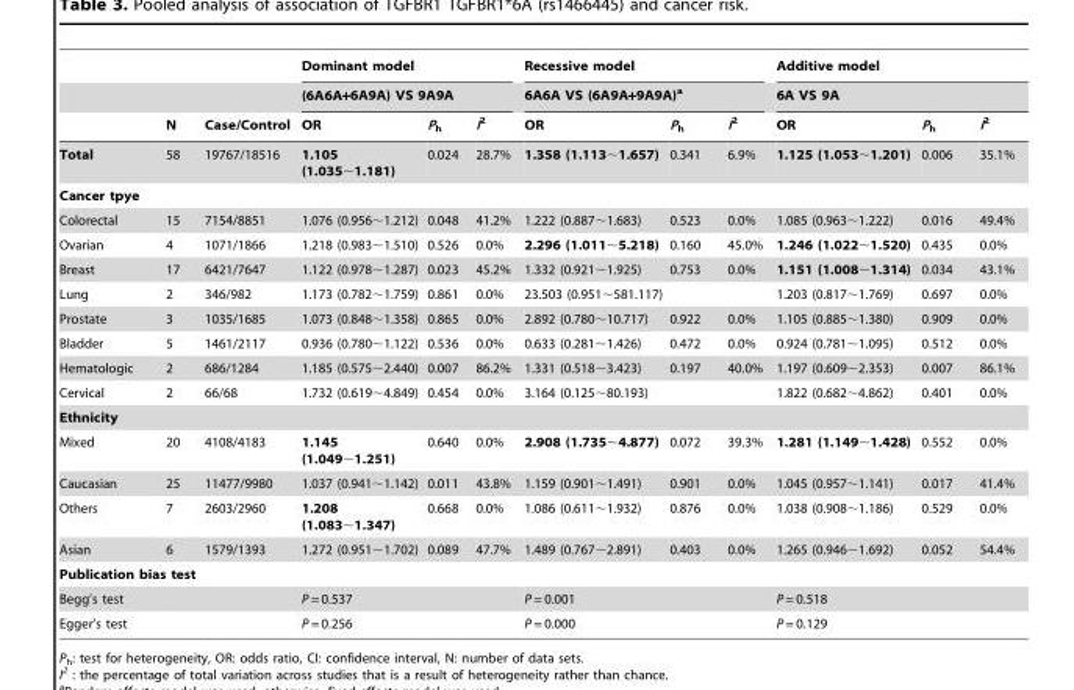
<table><thead><tr><td rowspan="3"></td><td rowspan="3">N</td><td rowspan="3">Case/Control</td><td rowspan="2" colspan="3">Dominant model (6A6A+6A9A) VS 9A9A</td><td rowspan="2" colspan="3">Recessive model 6A6A VS (6A9A+9A9A)<sup>a</sup></td><td rowspan="2" colspan="3">Additive model 6A VS 9A</td></tr><tr></tr><tr><td>OR</td><td>P<sub>h</sub></td><td>I<sup>2</sup></td><td>OR</td><td>P<sub>h</sub></td><td>I<sup>2</sup></td><td>OR</td><td>P<sub>h</sub></td><td>I<sup>2</sup></td></tr></thead><tbody><tr><td>Total</td><td>58</td><td>19767/18516</td><td>1.105 (1.035∼1.181)</td><td>0.024</td><td>28.7%</td><td>1.358 (1.113∼1.657)</td><td>0.341</td><td>6.9%</td><td>1.125 (1.053∼1.201)</td><td>0.006</td><td>35.1%</td></tr><tr><td colspan="12">Cancer tpye</td></tr><tr><td>Colorectal</td><td>15</td><td>7154/8851</td><td>1.076 (0.956∼1.212)</td><td>0.048</td><td>41.2%</td><td>1.222 (0.887∼1.683)</td><td>0.523</td><td>0.0%</td><td>1.085 (0.963∼1.222)</td><td>0.016</td><td>49.4%</td></tr><tr><td>Ovarian</td><td>4</td><td>1071/1866</td><td>1.218 (0.983∼1.510)</td><td>0.526</td><td>0.0%</td><td>2.296 (1.011∼5.218)</td><td>0.160</td><td>45.0%</td><td>1.246 (1.022∼1.520)</td><td>0.435</td><td>0.0%</td></tr><tr><td>Breast</td><td>17</td><td>6421/7647</td><td>1.122 (0.978∼1.287)</td><td>0.023</td><td>45.2%</td><td>1.332 (0.921∼1.925)</td><td>0.753</td><td>0.0%</td><td>1.151 (1.008∼1.314)</td><td>0.034</td><td>43.1%</td></tr><tr><td>Lung</td><td>2</td><td>346/982</td><td>1.173 (0.782∼1.759)</td><td>0.861</td><td>0.0%</td><td>23.503 (0.951∼581.117)</td><td></td><td></td><td>1.203 (0.817∼1.769)</td><td>0.697</td><td>0.0%</td></tr><tr><td>Prostate</td><td>3</td><td>1035/1685</td><td>1.073 (0.848∼1.358)</td><td>0.865</td><td>0.0%</td><td>2.892 (0.780∼10.717)</td><td>0.922</td><td>0.0%</td><td>1.105 (0.885∼1.380)</td><td>0.909</td><td>0.0%</td></tr><tr><td>Bladder</td><td>5</td><td>1461/2117</td><td>0.936 (0.780∼1.122)</td><td>0.536</td><td>0.0%</td><td>0.633 (0.281∼1.426)</td><td>0.472</td><td>0.0%</td><td>0.924 (0.781∼1.095)</td><td>0.512</td><td>0.0%</td></tr><tr><td>Hematologic</td><td>2</td><td>686/1284</td><td>1.185 (0.575∼2.440)</td><td>0.007</td><td>86.2%</td><td>1.331 (0.518∼3.423)</td><td>0.197</td><td>40.0%</td><td>1.197 (0.609∼2.353)</td><td>0.007</td><td>86.1%</td></tr><tr><td>Cervical</td><td>2</td><td>66/68</td><td>1.732 (0.619∼4.849)</td><td>0.454</td><td>0.0%</td><td>3.164 (0.125∼80.193)</td><td></td><td></td><td>1.822 (0.682∼4.862)</td><td>0.401</td><td>0.0%</td></tr><tr><td colspan="12">Ethnicity</td></tr><tr><td>Mixed</td><td>20</td><td>4108/4183</td><td>1.145 (1.049∼1.251)</td><td>0.640</td><td>0.0%</td><td>2.908 (1.735∼4.877)</td><td>0.072</td><td>39.3%</td><td>1.281 (1.149∼1.428)</td><td>0.552</td><td>0.0%</td></tr><tr><td>Caucasian</td><td>25</td><td>11477/9980</td><td>1.037 (0.941∼1.142)</td><td>0.011</td><td>43.8%</td><td>1.159 (0.901∼1.491)</td><td>0.901</td><td>0.0%</td><td>1.045 (0.957∼1.141)</td><td>0.017</td><td>41.4%</td></tr><tr><td>Others</td><td>7</td><td>2603/2960</td><td>1.208 (1.083∼1.347)</td><td>0.668</td><td>0.0%</td><td>1.086 (0.611∼1.932)</td><td>0.876</td><td>0.0%</td><td>1.038 (0.908∼1.186)</td><td>0.529</td><td>0.0%</td></tr><tr><td>Asian</td><td>6</td><td>1579/1393</td><td>1.272 (0.951∼1.702)</td><td>0.089</td><td>47.7%</td><td>1.489 (0.767∼2.891)</td><td>0.403</td><td>0.0%</td><td>1.265 (0.946∼1.692)</td><td>0.052</td><td>54.4%</td></tr><tr><td colspan="12">Publication bias test</td></tr><tr><td>Begg’s test</td><td></td><td></td><td colspan="3">P = 0.537</td><td colspan="3">P = 0.001</td><td colspan="3">P = 0.518</td></tr><tr><td>Egger’s test</td><td></td><td></td><td colspan="3">P = 0.256</td><td colspan="3">P = 0.000</td><td colspan="3">P = 0.129</td></tr></tbody></table>